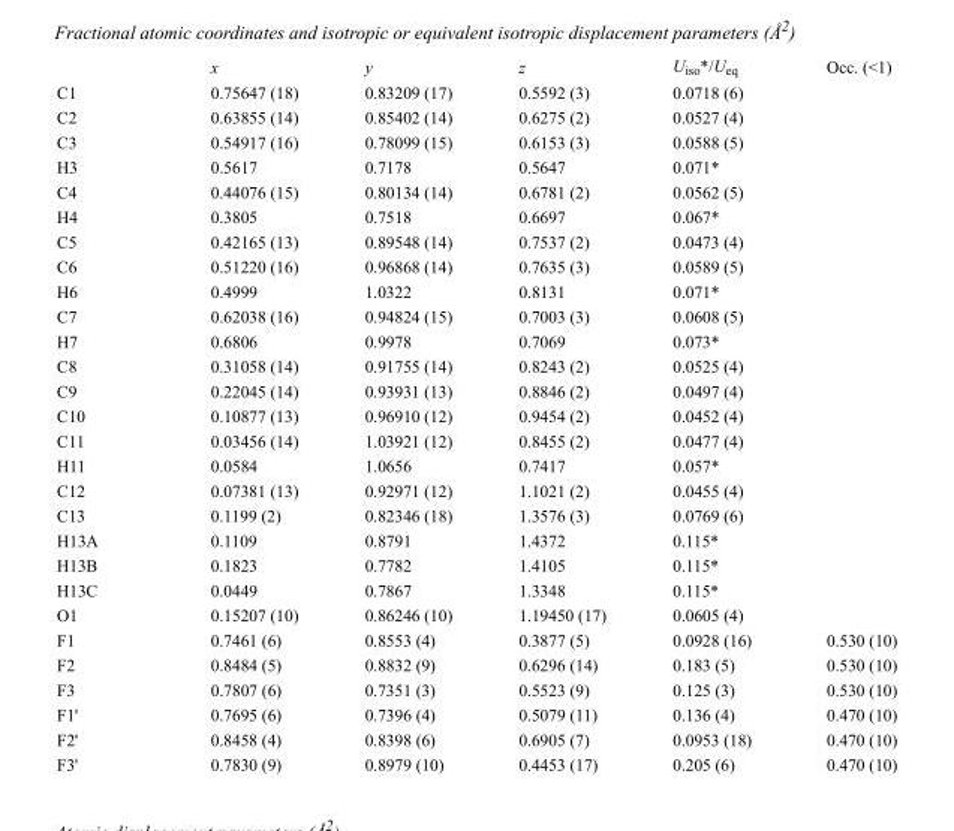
<table><thead><tr><td></td><td>x</td><td>y</td><td>z</td><td>U<sub>iso</sub>*/U<sub>eq</sub></td><td>Occ. (&lt;1)</td></tr></thead><tbody><tr><td>C1</td><td>0.75647 (18)</td><td>0.83209 (17)</td><td>0.5592 (3)</td><td>0.0718 (6)</td><td></td></tr><tr><td>C2</td><td>0.63855 (14)</td><td>0.85402 (14)</td><td>0.6275 (2)</td><td>0.0527 (4)</td><td></td></tr><tr><td>C3</td><td>0.54917 (16)</td><td>0.78099 (15)</td><td>0.6153 (3)</td><td>0.0588 (5)</td><td></td></tr><tr><td>H3</td><td>0.5617</td><td>0.7178</td><td>0.5647</td><td>0.071*</td><td></td></tr><tr><td>C4</td><td>0.44076 (15)</td><td>0.80134 (14)</td><td>0.6781 (2)</td><td>0.0562 (5)</td><td></td></tr><tr><td>H4</td><td>0.3805</td><td>0.7518</td><td>0.6697</td><td>0.067*</td><td></td></tr><tr><td>C5</td><td>0.42165 (13)</td><td>0.89548 (14)</td><td>0.7537 (2)</td><td>0.0473 (4)</td><td></td></tr><tr><td>C6</td><td>0.51220 (16)</td><td>0.96868 (14)</td><td>0.7635 (3)</td><td>0.0589 (5)</td><td></td></tr><tr><td>H6</td><td>0.4999</td><td>1.0322</td><td>0.8131</td><td>0.071*</td><td></td></tr><tr><td>C7</td><td>0.62038 (16)</td><td>0.94824 (15)</td><td>0.7003 (3)</td><td>0.0608 (5)</td><td></td></tr><tr><td>H7</td><td>0.6806</td><td>0.9978</td><td>0.7069</td><td>0.073*</td><td></td></tr><tr><td>C8</td><td>0.31058 (14)</td><td>0.91755 (14)</td><td>0.8243 (2)</td><td>0.0525 (4)</td><td></td></tr><tr><td>C9</td><td>0.22045 (14)</td><td>0.93931 (13)</td><td>0.8846 (2)</td><td>0.0497 (4)</td><td></td></tr><tr><td>C10</td><td>0.10877 (13)</td><td>0.96910 (12)</td><td>0.9454 (2)</td><td>0.0452 (4)</td><td></td></tr><tr><td>C11</td><td>0.03456 (14)</td><td>1.03921 (12)</td><td>0.8455 (2)</td><td>0.0477 (4)</td><td></td></tr><tr><td>H11</td><td>0.0584</td><td>1.0656</td><td>0.7417</td><td>0.057*</td><td></td></tr><tr><td>C12</td><td>0.07381 (13)</td><td>0.92971 (12)</td><td>1.1021 (2)</td><td>0.0455 (4)</td><td></td></tr><tr><td>C13</td><td>0.1199 (2)</td><td>0.82346 (18)</td><td>1.3576 (3)</td><td>0.0769 (6)</td><td></td></tr><tr><td>H13A</td><td>0.1109</td><td>0.8791</td><td>1.4372</td><td>0.115*</td><td></td></tr><tr><td>H13B</td><td>0.1823</td><td>0.7782</td><td>1.4105</td><td>0.115*</td><td></td></tr><tr><td>H13C</td><td>0.0449</td><td>0.7867</td><td>1.3348</td><td>0.115*</td><td></td></tr><tr><td>O1</td><td>0.15207 (10)</td><td>0.86246 (10)</td><td>1.19450 (17)</td><td>0.0605 (4)</td><td></td></tr><tr><td>F1</td><td>0.7461 (6)</td><td>0.8553 (4)</td><td>0.3877 (5)</td><td>0.0928 (16)</td><td>0.530 (10)</td></tr><tr><td>F2</td><td>0.8484 (5)</td><td>0.8832 (9)</td><td>0.6296 (14)</td><td>0.183 (5)</td><td>0.530 (10)</td></tr><tr><td>F3</td><td>0.7807 (6)</td><td>0.7351 (3)</td><td>0.5523 (9)</td><td>0.125 (3)</td><td>0.530 (10)</td></tr><tr><td>F1&#x27;</td><td>0.7695 (6)</td><td>0.7396 (4)</td><td>0.5079 (11)</td><td>0.136 (4)</td><td>0.470 (10)</td></tr><tr><td>F2&#x27;</td><td>0.8458 (4)</td><td>0.8398 (6)</td><td>0.6905 (7)</td><td>0.0953 (18)</td><td>0.470 (10)</td></tr><tr><td>F3&#x27;</td><td>0.7830 (9)</td><td>0.8979 (10)</td><td>0.4453 (17)</td><td>0.205 (6)</td><td>0.470 (10)</td></tr></tbody></table>